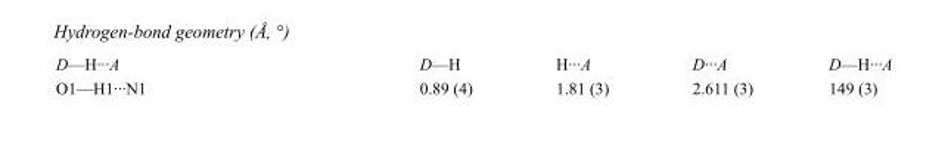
<table><tbody><tr><td>D—H···A</td><td>D—H</td><td>H···A</td><td>D···A</td><td>D—H···A</td></tr><tr><td>O1—H1···N1</td><td>0.89 (4)</td><td>1.81 (3)</td><td>2.611 (3)</td><td>149 (3)</td></tr></tbody></table>